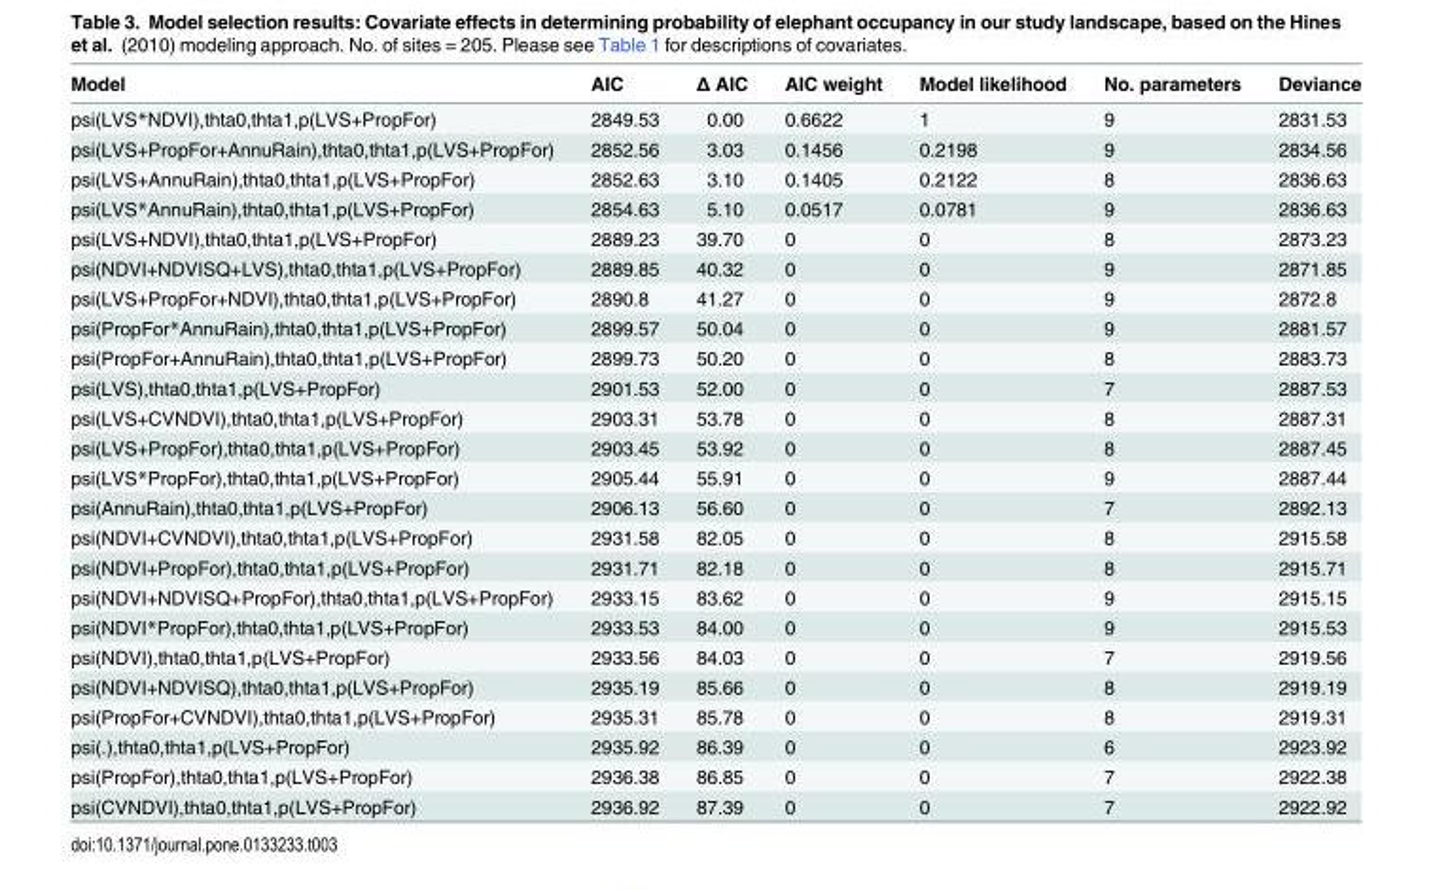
<table><thead><tr><td>Model</td><td>AIC</td><td>Δ AIC</td><td>AIC weight</td><td>Model likelihood</td><td>No. parameters</td><td>Deviance</td></tr></thead><tbody><tr><td>psi(LVS*NDVI),thta0,thta1,p(LVS+PropFor)</td><td>2849.53</td><td>0.00</td><td>0.6622</td><td>1</td><td>9</td><td>2831.53</td></tr><tr><td>psi(LVS+PropFor+AnnuRain),thta0,thta1,p(LVS+PropFor)</td><td>2852.56</td><td>3.03</td><td>0.1456</td><td>0.2198</td><td>9</td><td>2834.56</td></tr><tr><td>psi(LVS+AnnuRain),thta0,thta1,p(LVS+PropFor)</td><td>2852.63</td><td>3.10</td><td>0.1405</td><td>0.2122</td><td>8</td><td>2836.63</td></tr><tr><td>psi(LVS*AnnuRain),thta0,thta1,p(LVS+PropFor)</td><td>2854.63</td><td>5.10</td><td>0.0517</td><td>0.0781</td><td>9</td><td>2836.63</td></tr><tr><td>psi(LVS+NDVI),thta0,thta1,p(LVS+PropFor)</td><td>2889.23</td><td>39.70</td><td>0</td><td>0</td><td>8</td><td>2873.23</td></tr><tr><td>psi(NDVI+NDVISQ+LVS),thta0,thta1,p(LVS+PropFor)</td><td>2889.85</td><td>40.32</td><td>0</td><td>0</td><td>9</td><td>2871.85</td></tr><tr><td>psi(LVS+PropFor+NDVI),thta0,thta1,p(LVS+PropFor)</td><td>2890.8</td><td>41.27</td><td>0</td><td>0</td><td>9</td><td>2872.8</td></tr><tr><td>psi(PropFor*AnnuRain),thta0,thta1,p(LVS+PropFor)</td><td>2899.57</td><td>50.04</td><td>0</td><td>0</td><td>9</td><td>2881.57</td></tr><tr><td>psi(PropFor+AnnuRain),thta0,thta1,p(LVS+PropFor)</td><td>2899.73</td><td>50.20</td><td>0</td><td>0</td><td>8</td><td>2883.73</td></tr><tr><td>psi(LVS),thta0,thta1,p(LVS+PropFor)</td><td>2901.53</td><td>52.00</td><td>0</td><td>0</td><td>7</td><td>2887.53</td></tr><tr><td>psi(LVS+CVNDVI),thta0,thta1,p(LVS+PropFor)</td><td>2903.31</td><td>53.78</td><td>0</td><td>0</td><td>8</td><td>2887.31</td></tr><tr><td>psi(LVS+PropFor),thta0,thta1,p(LVS+PropFor)</td><td>2903.45</td><td>53.92</td><td>0</td><td>0</td><td>8</td><td>2887.45</td></tr><tr><td>psi(LVS*PropFor),thta0,thta1,p(LVS+PropFor)</td><td>2905.44</td><td>55.91</td><td>0</td><td>0</td><td>9</td><td>2887.44</td></tr><tr><td>psi(AnnuRain),thta0,thta1,p(LVS+PropFor)</td><td>2906.13</td><td>56.60</td><td>0</td><td>0</td><td>7</td><td>2892.13</td></tr><tr><td>psi(NDVI+CVNDVI),thta0,thta1,p(LVS+PropFor)</td><td>2931.58</td><td>82.05</td><td>0</td><td>0</td><td>8</td><td>2915.58</td></tr><tr><td>psi(NDVI+PropFor),thta0,thta1,p(LVS+PropFor)</td><td>2931.71</td><td>82.18</td><td>0</td><td>0</td><td>8</td><td>2915.71</td></tr><tr><td>psi(NDVI+NDVISQ+PropFor),thta0,thta1,p(LVS+PropFor)</td><td>2933.15</td><td>83.62</td><td>0</td><td>0</td><td>9</td><td>2915.15</td></tr><tr><td>psi(NDVI*PropFor),thta0,thta1,p(LVS+PropFor)</td><td>2933.53</td><td>84.00</td><td>0</td><td>0</td><td>9</td><td>2915.53</td></tr><tr><td>psi(NDVI),thta0,thta1,p(LVS+PropFor)</td><td>2933.56</td><td>84.03</td><td>0</td><td>0</td><td>7</td><td>2919.56</td></tr><tr><td>psi(NDVI+NDVISQ),thta0,thta1,p(LVS+PropFor)</td><td>2935.19</td><td>85.66</td><td>0</td><td>0</td><td>8</td><td>2919.19</td></tr><tr><td>psi(PropFor+CVNDVI),thta0,thta1,p(LVS+PropFor)</td><td>2935.31</td><td>85.78</td><td>0</td><td>0</td><td>8</td><td>2919.31</td></tr><tr><td>psi(.),thta0,thta1,p(LVS+PropFor)</td><td>2935.92</td><td>86.39</td><td>0</td><td>0</td><td>6</td><td>2923.92</td></tr><tr><td>psi(PropFor),thta0,thta1,p(LVS+PropFor)</td><td>2936.38</td><td>86.85</td><td>0</td><td>0</td><td>7</td><td>2922.38</td></tr><tr><td>psi(CVNDVI),thta0,thta1,p(LVS+PropFor)</td><td>2936.92</td><td>87.39</td><td>0</td><td>0</td><td>7</td><td>2922.92</td></tr></tbody></table>